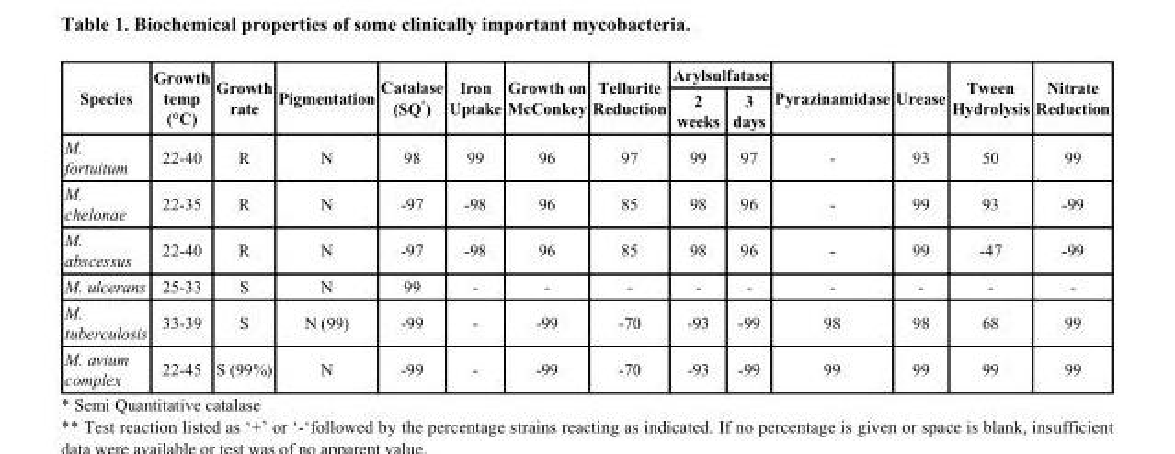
<table><thead><tr><td rowspan="2">Species</td><td rowspan="2">Growth temp (°C)</td><td rowspan="2">Growth rate</td><td rowspan="2">Pigmentation</td><td rowspan="2">Catalase (SQ *)</td><td rowspan="2">Iron Uptake</td><td rowspan="2">Growth on McConkey</td><td rowspan="2">Tellurite Reduction</td><td colspan="2">Arylsulfatase</td><td rowspan="2">Pyrazinamidase</td><td rowspan="2">Urease</td><td rowspan="2">Tween Hydrolysis</td><td rowspan="2">Nitrate Reduction</td></tr><tr><td>2 weeks</td><td>3 days</td></tr></thead><tbody><tr><td>M. fortuitum</td><td>22-40</td><td>R</td><td>N</td><td>98</td><td>99</td><td>96</td><td>97</td><td>99</td><td>97</td><td>-</td><td>93</td><td>50</td><td>99</td></tr><tr><td>M. chelonae</td><td>22-35</td><td>R</td><td>N</td><td>-97</td><td>-98</td><td>96</td><td>85</td><td>98</td><td>96</td><td>-</td><td>99</td><td>93</td><td>-99</td></tr><tr><td>M. abscessus</td><td>22-40</td><td>R</td><td>N</td><td>-97</td><td>-98</td><td>96</td><td>85</td><td>98</td><td>96</td><td>-</td><td>99</td><td>-47</td><td>-99</td></tr><tr><td>M. ulcerans</td><td>25-33</td><td>S</td><td>N</td><td>99</td><td>-</td><td>-</td><td>-</td><td>-</td><td>-</td><td>-</td><td>-</td><td>-</td><td>-</td></tr><tr><td>M. tuberculosis</td><td>33-39</td><td>S</td><td>N (99)</td><td>-99</td><td>-</td><td>-99</td><td>-70</td><td>-93</td><td>-99</td><td>98</td><td>98</td><td>68</td><td>99</td></tr><tr><td>M. avium complex</td><td>22-45</td><td>S (99%)</td><td>N</td><td>-99</td><td>-</td><td>-99</td><td>-70</td><td>-93</td><td>-99</td><td>99</td><td>99</td><td>99</td><td>99</td></tr></tbody></table>